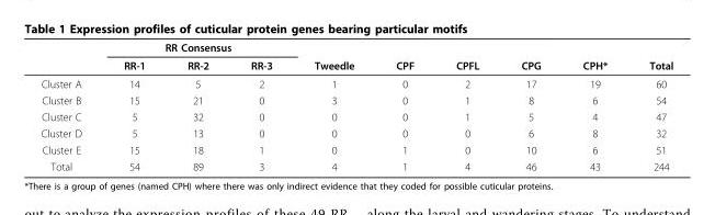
<table><thead><tr><td rowspan="2"></td><td colspan="3">RR Consensus</td><td rowspan="2">Tweedle</td><td rowspan="2">CPF</td><td rowspan="2">CPFL</td><td rowspan="2">CPG</td><td rowspan="2">CPH*</td><td rowspan="2">Total</td></tr><tr><td>RR-1</td><td>RR-2</td><td>RR-3</td></tr></thead><tbody><tr><td>Cluster A</td><td>14</td><td>5</td><td>2</td><td>1</td><td>0</td><td>2</td><td>17</td><td>19</td><td>60</td></tr><tr><td>Cluster B</td><td>15</td><td>21</td><td>0</td><td>3</td><td>0</td><td>1</td><td>8</td><td>6</td><td>54</td></tr><tr><td>Cluster C</td><td>5</td><td>32</td><td>0</td><td>0</td><td>0</td><td>1</td><td>5</td><td>4</td><td>47</td></tr><tr><td>Cluster D</td><td>5</td><td>13</td><td>0</td><td>0</td><td>0</td><td>0</td><td>6</td><td>8</td><td>32</td></tr><tr><td>Cluster E</td><td>15</td><td>18</td><td>1</td><td>0</td><td>1</td><td>0</td><td>10</td><td>6</td><td>51</td></tr><tr><td>Total</td><td>54</td><td>89</td><td>3</td><td>4</td><td>1</td><td>4</td><td>46</td><td>43</td><td>244</td></tr></tbody></table>